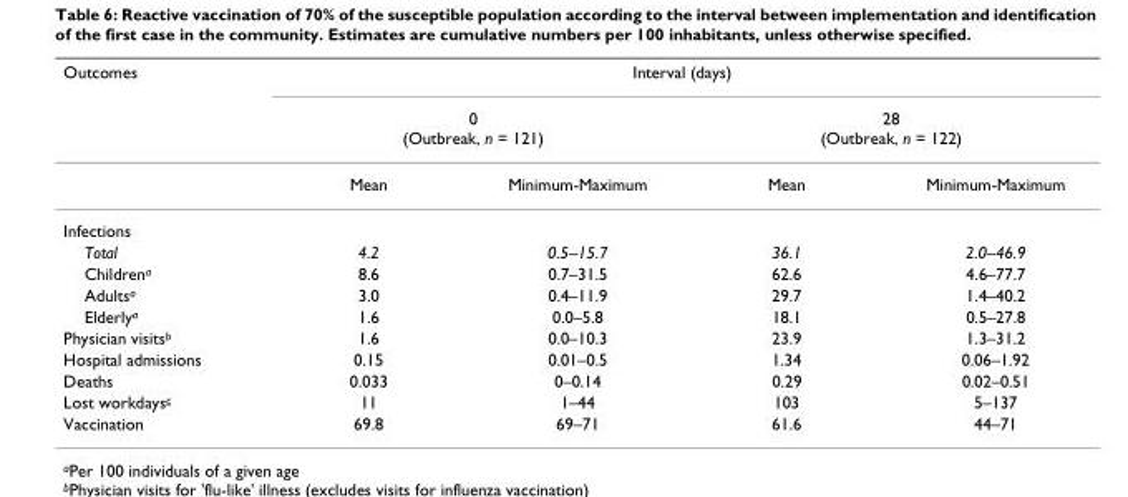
<table><thead><tr><td rowspan="3">Outcomes</td><td colspan="4">Interval (days)</td></tr><tr><td colspan="2">0 (Outbreak, n = 121)</td><td colspan="2">28 (Outbreak, n = 122)</td></tr><tr><td>Mean</td><td>Minimum-Maximum</td><td>Mean</td><td>Minimum-Maximum</td></tr></thead><tbody><tr><td colspan="5">Infections</td></tr><tr><td>Total</td><td>4.2</td><td>0.5–15.7</td><td>36.1</td><td>2.0–46.9</td></tr><tr><td>Childrena</td><td>8.6</td><td>0.7–31.5</td><td>62.6</td><td>4.6–77.7</td></tr><tr><td>Adultsa</td><td>3.0</td><td>0.4–11.9</td><td>29.7</td><td>1.4–40.2</td></tr><tr><td>Elderlya</td><td>1.6</td><td>0.0–5.8</td><td>18.1</td><td>0.5–27.8</td></tr><tr><td>Physician visitsb</td><td>1.6</td><td>0.0–10.3</td><td>23.9</td><td>1.3–31.2</td></tr><tr><td>Hospital admissions</td><td>0.15</td><td>0.01–0.5</td><td>1.34</td><td>0.06–1.92</td></tr><tr><td>Deaths</td><td>0.033</td><td>0–0.14</td><td>0.29</td><td>0.02–0.51</td></tr><tr><td>Lost workdaysc</td><td>11</td><td>1–44</td><td>103</td><td>5–137</td></tr><tr><td>Vaccination</td><td>69.8</td><td>69–71</td><td>61.6</td><td>44–71</td></tr></tbody></table>